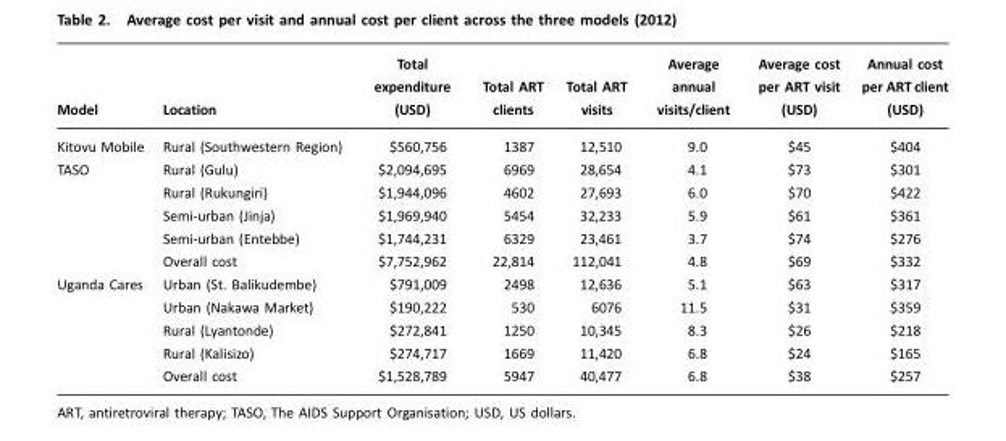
<table><thead><tr><td>Model</td><td>Location</td><td>Total expenditure (USD)</td><td>Total ART clients</td><td>Total ART visits</td><td>Average annual visits/client</td><td>Average cost per ART visit (USD)</td><td>Annual cost per ART client (USD)</td></tr></thead><tbody><tr><td>Kitovu Mobile</td><td>Rural (Southwestern Region)</td><td>$560,756</td><td>1387</td><td>12,510</td><td>9.0</td><td>$45</td><td>$404</td></tr><tr><td rowspan="5">TASO</td><td>Rural (Gulu)</td><td>$2,094,695</td><td>6969</td><td>28,654</td><td>4.1</td><td>$73</td><td>$301</td></tr><tr><td>Rural (Rukungiri)</td><td>$1,944,096</td><td>4602</td><td>27,693</td><td>6.0</td><td>$70</td><td>$422</td></tr><tr><td>Semi-urban (Jinja)</td><td>$1,969,940</td><td>5454</td><td>32,233</td><td>5.9</td><td>$61</td><td>$361</td></tr><tr><td>Semi-urban (Entebbe)</td><td>$1,744,231</td><td>6329</td><td>23,461</td><td>3.7</td><td>$74</td><td>$276</td></tr><tr><td>Overall cost</td><td>$7,752,962</td><td>22,814</td><td>112,041</td><td>4.8</td><td>$69</td><td>$332</td></tr><tr><td rowspan="5">Uganda Cares</td><td>Urban (St. Balikudembe)</td><td>$791,009</td><td>2498</td><td>12,636</td><td>5.1</td><td>$63</td><td>$317</td></tr><tr><td>Urban (Nakawa Market)</td><td>$190,222</td><td>530</td><td>6076</td><td>11.5</td><td>$31</td><td>$359</td></tr><tr><td>Rural (Lyantonde)</td><td>$272,841</td><td>1250</td><td>10,345</td><td>8.3</td><td>$26</td><td>$218</td></tr><tr><td>Rural (Kalisizo)</td><td>$274,717</td><td>1669</td><td>11,420</td><td>6.8</td><td>$24</td><td>$165</td></tr><tr><td>Overall cost</td><td>$1,528,789</td><td>5947</td><td>40,477</td><td>6.8</td><td>$38</td><td>$257</td></tr></tbody></table>